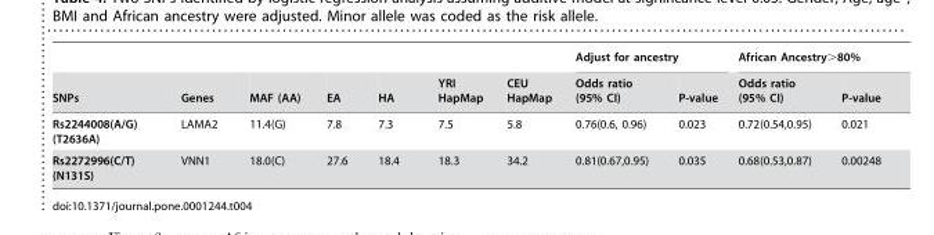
<table><thead><tr><td rowspan="2">SNPs</td><td rowspan="2">Genes</td><td rowspan="2">MAF (AA)</td><td rowspan="2">EA</td><td rowspan="2">HA</td><td rowspan="2">YRI HapMap</td><td rowspan="2">CEU HapMap</td><td colspan="2">Adjust for ancestry</td><td colspan="2">African Ancestry&gt;80%</td></tr><tr><td>Odds ratio (95% CI)</td><td>P-value</td><td>Odds ratio (95% CI)</td><td>P-value</td></tr></thead><tbody><tr><td>Rs2244008(A/G) (T2636A)</td><td>LAMA2</td><td>11.4(G)</td><td>7.8</td><td>7.3</td><td>7.5</td><td>5.8</td><td>0.76(0.6, 0.96)</td><td>0.023</td><td>0.72(0.54,0.95)</td><td>0.021</td></tr><tr><td>Rs2272996(C/T) (N131S)</td><td>VNN1</td><td>18.0(C)</td><td>27.6</td><td>18.4</td><td>18.3</td><td>34.2</td><td>0.81(0.67,0.95)</td><td>0.035</td><td>0.68(0.53,0.87)</td><td>0.00248</td></tr></tbody></table>